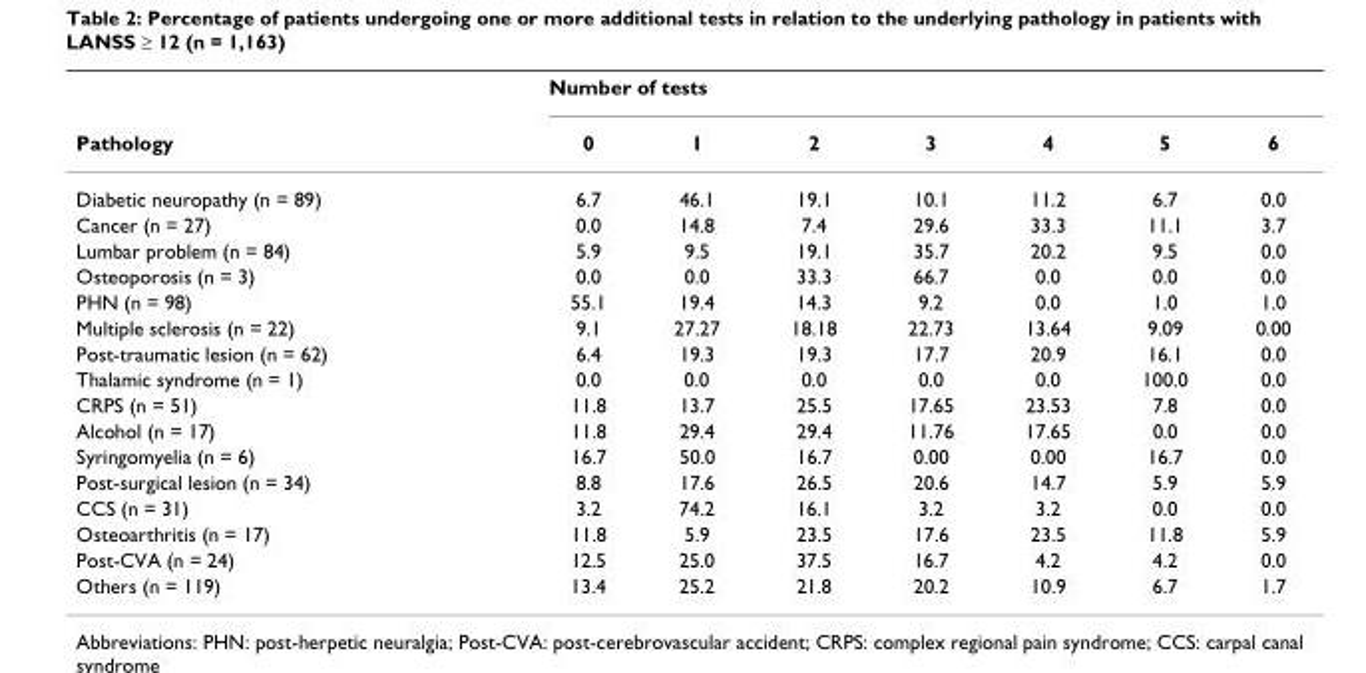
<table><thead><tr><td rowspan="2">Pathology</td><td colspan="7">Number of tests</td></tr><tr><td>0</td><td>1</td><td>2</td><td>3</td><td>4</td><td>5</td><td>6</td></tr></thead><tbody><tr><td>Diabetic neuropathy (n = 89)</td><td>6.7</td><td>46.1</td><td>19.1</td><td>10.1</td><td>11.2</td><td>6.7</td><td>0.0</td></tr><tr><td>Cancer (n = 27)</td><td>0.0</td><td>14.8</td><td>7.4</td><td>29.6</td><td>33.3</td><td>11.1</td><td>3.7</td></tr><tr><td>Lumbar problem (n = 84)</td><td>5.9</td><td>9.5</td><td>19.1</td><td>35.7</td><td>20.2</td><td>9.5</td><td>0.0</td></tr><tr><td>Osteoporosis (n = 3)</td><td>0.0</td><td>0.0</td><td>33.3</td><td>66.7</td><td>0.0</td><td>0.0</td><td>0.0</td></tr><tr><td>PHN (n = 98)</td><td>55.1</td><td>19.4</td><td>14.3</td><td>9.2</td><td>0.0</td><td>1.0</td><td>1.0</td></tr><tr><td>Multiple sclerosis (n = 22)</td><td>9.1</td><td>27.27</td><td>18.18</td><td>22.73</td><td>13.64</td><td>9.09</td><td>0.00</td></tr><tr><td>Post-traumatic lesion (n = 62)</td><td>6.4</td><td>19.3</td><td>19.3</td><td>17.7</td><td>20.9</td><td>16.1</td><td>0.0</td></tr><tr><td>Thalamic syndrome (n = 1)</td><td>0.0</td><td>0.0</td><td>0.0</td><td>0.0</td><td>0.0</td><td>100.0</td><td>0.0</td></tr><tr><td>CRPS (n = 51)</td><td>11.8</td><td>13.7</td><td>25.5</td><td>17.65</td><td>23.53</td><td>7.8</td><td>0.0</td></tr><tr><td>Alcohol (n = 17)</td><td>11.8</td><td>29.4</td><td>29.4</td><td>11.76</td><td>17.65</td><td>0.0</td><td>0.0</td></tr><tr><td>Syringomyelia (n = 6)</td><td>16.7</td><td>50.0</td><td>16.7</td><td>0.00</td><td>0.00</td><td>16.7</td><td>0.0</td></tr><tr><td>Post-surgical lesion (n = 34)</td><td>8.8</td><td>17.6</td><td>26.5</td><td>20.6</td><td>14.7</td><td>5.9</td><td>5.9</td></tr><tr><td>CCS (n = 31)</td><td>3.2</td><td>74.2</td><td>16.1</td><td>3.2</td><td>3.2</td><td>0.0</td><td>0.0</td></tr><tr><td>Osteoarthritis (n = 17)</td><td>11.8</td><td>5.9</td><td>23.5</td><td>17.6</td><td>23.5</td><td>11.8</td><td>5.9</td></tr><tr><td>Post-CVA (n = 24)</td><td>12.5</td><td>25.0</td><td>37.5</td><td>16.7</td><td>4.2</td><td>4.2</td><td>0.0</td></tr><tr><td>Others (n = 119)</td><td>13.4</td><td>25.2</td><td>21.8</td><td>20.2</td><td>10.9</td><td>6.7</td><td>1.7</td></tr></tbody></table>